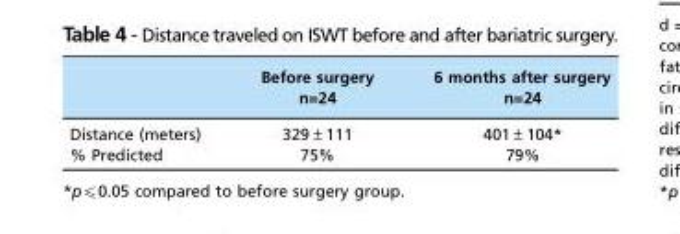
<table><thead><tr><td></td><td>Before surgery n=24</td><td>6 months after surgery n=24</td></tr></thead><tbody><tr><td>Distance (meters)</td><td>329±111</td><td>401±104*</td></tr><tr><td>% Predicted</td><td>75%</td><td>79%</td></tr></tbody></table>